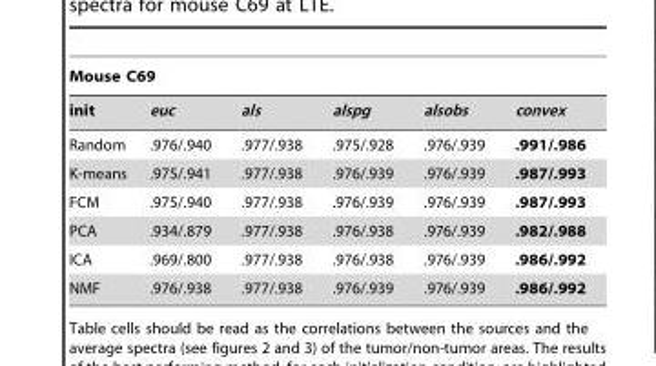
<table><thead><tr><td colspan="6">Mouse C69</td></tr><tr><td>init</td><td>euc</td><td>als</td><td>alspg</td><td>alsobs</td><td>convex</td></tr></thead><tbody><tr><td>Random</td><td>.976/.940</td><td>.977/.938</td><td>.975/.928</td><td>.976/.939</td><td>.991/.986</td></tr><tr><td>K-means</td><td>.975/.941</td><td>.977/.938</td><td>.976/.939</td><td>.976/.939</td><td>.987/.993</td></tr><tr><td>FCM</td><td>.975/.940</td><td>.977/.938</td><td>.976/.939</td><td>.976/.939</td><td>.987/.993</td></tr><tr><td>PCA</td><td>.934/.879</td><td>.977/.938</td><td>.976/.938</td><td>.976/.939</td><td>.982/.988</td></tr><tr><td>ICA</td><td>.969/.800</td><td>.977/.938</td><td>.976/.938</td><td>.976/.939</td><td>.986/.992</td></tr><tr><td>NMF</td><td>.976/.938</td><td>.977/.938</td><td>.976/.939</td><td>.976/.939</td><td>.986/.992</td></tr></tbody></table>